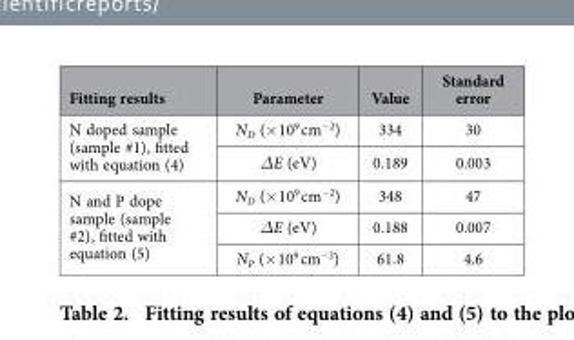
<table><thead><tr><td>Fitting results</td><td>Parameter</td><td>Value</td><td>Standard error</td></tr></thead><tbody><tr><td rowspan="2">N doped sample (sample #1), fitted with equation (4)</td><td>N<sub>D</sub> (× 10<sup>9</sup> cm<sup>−2</sup>)</td><td>334</td><td>30</td></tr><tr><td>ΔE (eV)</td><td>0.189</td><td>0.003</td></tr><tr><td rowspan="3">N and P dope sample (sample #2), fitted with equation (5)</td><td>N<sub>D</sub> (× 10<sup>9</sup> cm<sup>−2</sup>)</td><td>348</td><td>47</td></tr><tr><td>ΔE (eV)</td><td>0.188</td><td>0.007</td></tr><tr><td>N<sub>P</sub> (× 10<sup>9</sup> cm<sup>−2</sup>)</td><td>61.8</td><td>4.6</td></tr></tbody></table>